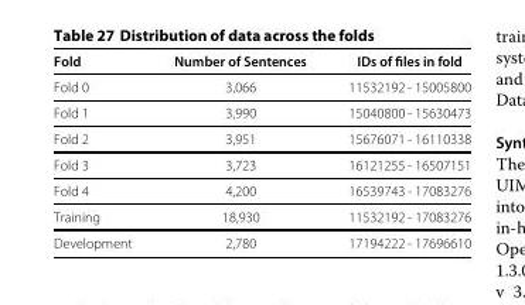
<table><thead><tr><td>Fold</td><td>Number of Sentences</td><td>IDs of files in fold</td></tr></thead><tbody><tr><td>Fold 0</td><td>3,066</td><td>11532192 - 15005800</td></tr><tr><td>Fold 1</td><td>3,990</td><td>15040800 - 15630473</td></tr><tr><td>Fold 2</td><td>3,951</td><td>15676071 - 16110338</td></tr><tr><td>Fold 3</td><td>3,723</td><td>16121255 - 16507151</td></tr><tr><td>Fold 4</td><td>4,200</td><td>16539743 - 17083276</td></tr><tr><td>Training</td><td>18,930</td><td>11532192 - 17083276</td></tr><tr><td>Development</td><td>2,780</td><td>17194222 - 17696610</td></tr></tbody></table>